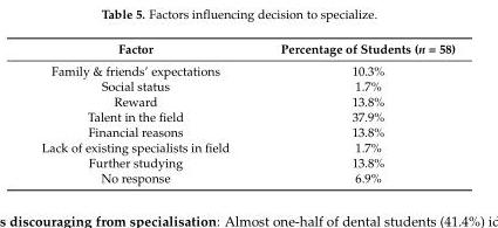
<table><thead><tr><td>Factor</td><td>Percentage of Students (n = 58)</td></tr></thead><tbody><tr><td>Family &amp; friends’ expectations</td><td>10.3%</td></tr><tr><td>Social status</td><td>1.7%</td></tr><tr><td>Reward</td><td>13.8%</td></tr><tr><td>Talent in the field</td><td>37.9%</td></tr><tr><td>Financial reasons</td><td>13.8%</td></tr><tr><td>Lack of existing specialists in field</td><td>1.7%</td></tr><tr><td>Further studying</td><td>13.8%</td></tr><tr><td>No response</td><td>6.9%</td></tr></tbody></table>